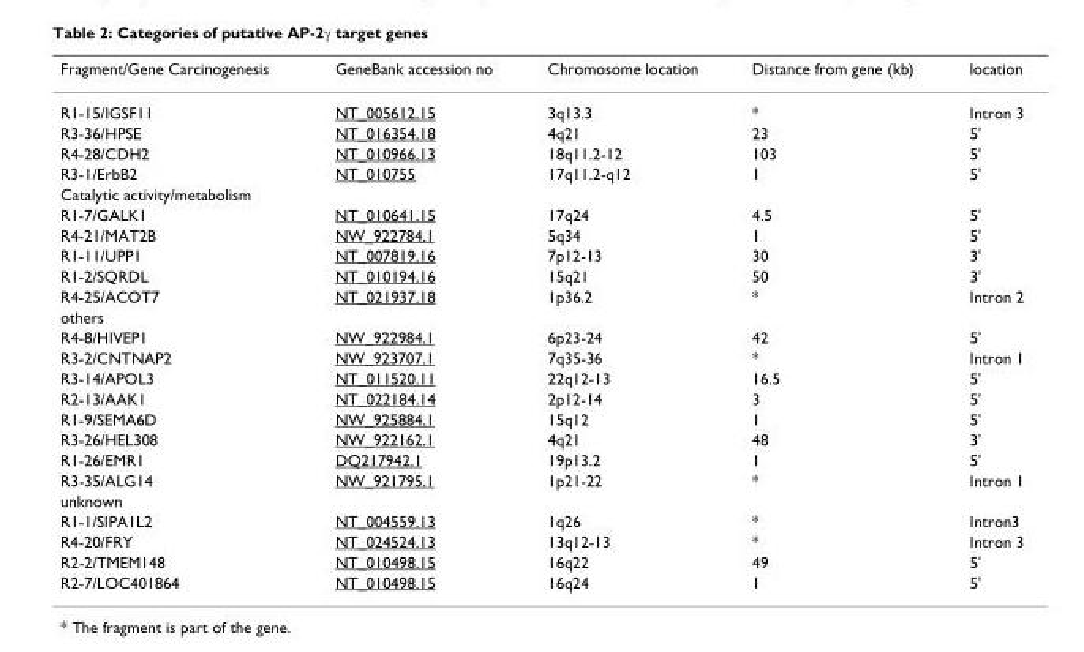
<table><thead><tr><td>Fragment/Gene Carcinogenesis</td><td>GeneBank accession no</td><td>Chromosome location</td><td>Distance from gene (kb)</td><td>location</td></tr></thead><tbody><tr><td>R1-15/IGSF11</td><td>NT_005612.15</td><td>3q13.3</td><td>*</td><td>Intron 3</td></tr><tr><td>R3-36/HPSE</td><td>NT_016354.18</td><td>4q21</td><td>23</td><td>5&#x27;</td></tr><tr><td>R4-28/CDH2</td><td>NT_010966.13</td><td>18q11.2-12</td><td>103</td><td>5&#x27;</td></tr><tr><td>R3-1/ErbB2</td><td>NT_010755</td><td>17q11.2-q12</td><td>1</td><td>5&#x27;</td></tr><tr><td colspan="5">Catalytic activity/metabolism</td></tr><tr><td>R1-7/GALK1</td><td>NT_010641.15</td><td>17q24</td><td>4.5</td><td>5&#x27;</td></tr><tr><td>R4-21/MAT2B</td><td>NW_922784.1</td><td>5q34</td><td>1</td><td>5&#x27;</td></tr><tr><td>R1-11/UPP1</td><td>NT_007819.16</td><td>7p12-13</td><td>30</td><td>3&#x27;</td></tr><tr><td>R1-2/SQRDL</td><td>NT_010194.16</td><td>15q21</td><td>50</td><td>3&#x27;</td></tr><tr><td>R4-25/ACOT7</td><td>NT_021937.18</td><td>1p36.2</td><td>*</td><td>Intron 2</td></tr><tr><td colspan="5">others</td></tr><tr><td>R4-8/HIVEP1</td><td>NW_922984.1</td><td>6p23-24</td><td>42</td><td>5&#x27;</td></tr><tr><td>R3-2/CNTNAP2</td><td>NW_923707.1</td><td>7q35-36</td><td>*</td><td>Intron 1</td></tr><tr><td>R3-14/APOL3</td><td>NT_011520.11</td><td>22q12-13</td><td>16.5</td><td>5&#x27;</td></tr><tr><td>R2-13/AAK1</td><td>NT_022184.14</td><td>2p12-14</td><td>3</td><td>5&#x27;</td></tr><tr><td>R1-9/SEMA6D</td><td>NW_925884.1</td><td>15q12</td><td>1</td><td>5&#x27;</td></tr><tr><td>R3-26/HEL308</td><td>NW_922162.1</td><td>4q21</td><td>48</td><td>3&#x27;</td></tr><tr><td>R1-26/EMR1</td><td>DQ217942.1</td><td>19p13.2</td><td>1</td><td>5&#x27;</td></tr><tr><td>R3-35/ALG14</td><td>NW_921795.1</td><td>1p21-22</td><td>*</td><td>Intron 1</td></tr><tr><td colspan="5">unknown</td></tr><tr><td>R1-1/SIPA1L2</td><td>NT_004559.13</td><td>1q26</td><td>*</td><td>Intron3</td></tr><tr><td>R4-20/FRY</td><td>NT_024524.13</td><td>13q12-13</td><td>*</td><td>Intron 3</td></tr><tr><td>R2-2/TMEM148</td><td>NT_010498.15</td><td>16q22</td><td>49</td><td>5&#x27;</td></tr><tr><td>R2-7/LOC401864</td><td>NT_010498.15</td><td>16q24</td><td>1</td><td>5&#x27;</td></tr></tbody></table>